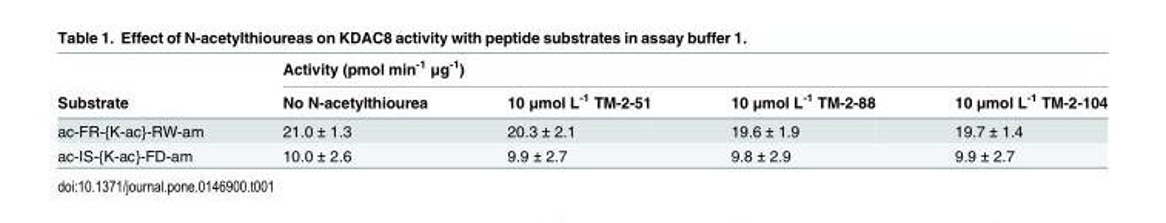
<table><thead><tr><td rowspan="2">Substrate</td><td colspan="4">Activity (pmol min<sup>-1</sup> μg<sup>-1</sup>)</td></tr><tr><td>No N-acetylthiourea</td><td>10 μmol L<sup>-1</sup> TM-2-51</td><td>10 μmol L<sup>-1</sup> TM-2-88</td><td>10 μmol L<sup>-1</sup> TM-2-104</td></tr></thead><tbody><tr><td>ac-FR-{K-ac}-RW-am</td><td>21.0 ± 1.3</td><td>20.3 ± 2.1</td><td>19.6 ± 1.9</td><td>19.7 ± 1.4</td></tr><tr><td>ac-IS-{K-ac}-FD-am</td><td>10.0 ± 2.6</td><td>9.9 ± 2.7</td><td>9.8 ± 2.9</td><td>9.9 ± 2.7</td></tr></tbody></table>